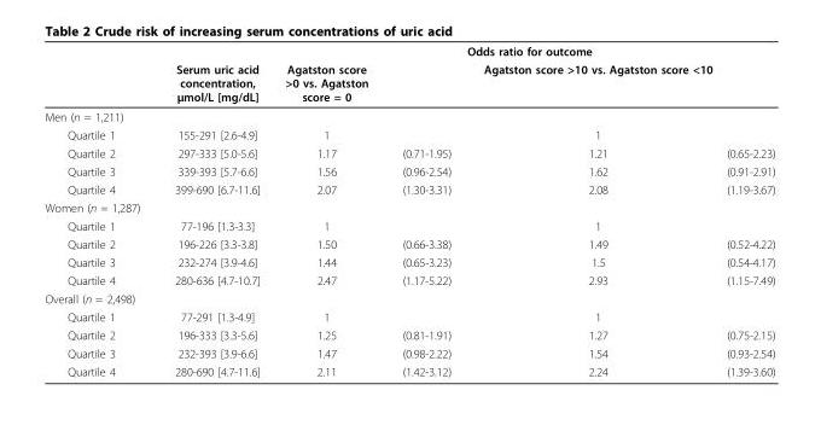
<table><thead><tr><td rowspan="2"></td><td rowspan="2">Serum uric acid concentration, μmol/L [mg/dL]</td><td colspan="4">Odds ratio for outcome</td></tr><tr><td>Agatston score &gt;0 vs. Agatston score = 0</td><td></td><td>Agatston score &gt;10 vs. Agatston score &lt;10</td><td></td></tr></thead><tbody><tr><td colspan="6">Men (n = 1,211)</td></tr><tr><td>Quartile 1</td><td>155-291 [2.6-4.9]</td><td>1</td><td></td><td>1</td><td></td></tr><tr><td>Quartile 2</td><td>297-333 [5.0-5.6]</td><td>1.17</td><td>(0.71-1.95)</td><td>1.21</td><td>(0.65-2.23)</td></tr><tr><td>Quartile 3</td><td>339-393 [5.7-6.6]</td><td>1.56</td><td>(0.96-2.54)</td><td>1.62</td><td>(0.91-2.91)</td></tr><tr><td>Quartile 4</td><td>399-690 [6.7-11.6]</td><td>2.07</td><td>(1.30-3.31)</td><td>2.08</td><td>(1.19-3.67)</td></tr><tr><td colspan="6">Women (n = 1,287)</td></tr><tr><td>Quartile 1</td><td>77-196 [1.3-3.3]</td><td>1</td><td></td><td>1</td><td></td></tr><tr><td>Quartile 2</td><td>196-226 [3.3-3.8]</td><td>1.50</td><td>(0.66-3.38)</td><td>1.49</td><td>(0.52-4.22)</td></tr><tr><td>Quartile 3</td><td>232-274 [3.9-4.6]</td><td>1.44</td><td>(0.65-3.23)</td><td>1.5</td><td>(0.54-4.17)</td></tr><tr><td>Quartile 4</td><td>280-636 [4.7-10.7]</td><td>2.47</td><td>(1.17-5.22)</td><td>2.93</td><td>(1.15-7.49)</td></tr><tr><td colspan="6">Overall (n = 2,498)</td></tr><tr><td>Quartile 1</td><td>77-291 [1.3-4.9]</td><td>1</td><td></td><td>1</td><td></td></tr><tr><td>Quartile 2</td><td>196-333 [3.3-5.6]</td><td>1.25</td><td>(0.81-1.91)</td><td>1.27</td><td>(0.75-2.15)</td></tr><tr><td>Quartile 3</td><td>232-393 [3.9-6.6]</td><td>1.47</td><td>(0.98-2.22)</td><td>1.54</td><td>(0.93-2.54)</td></tr><tr><td>Quartile 4</td><td>280-690 [4.7-11.6]</td><td>2.11</td><td>(1.42-3.12)</td><td>2.24</td><td>(1.39-3.60)</td></tr></tbody></table>